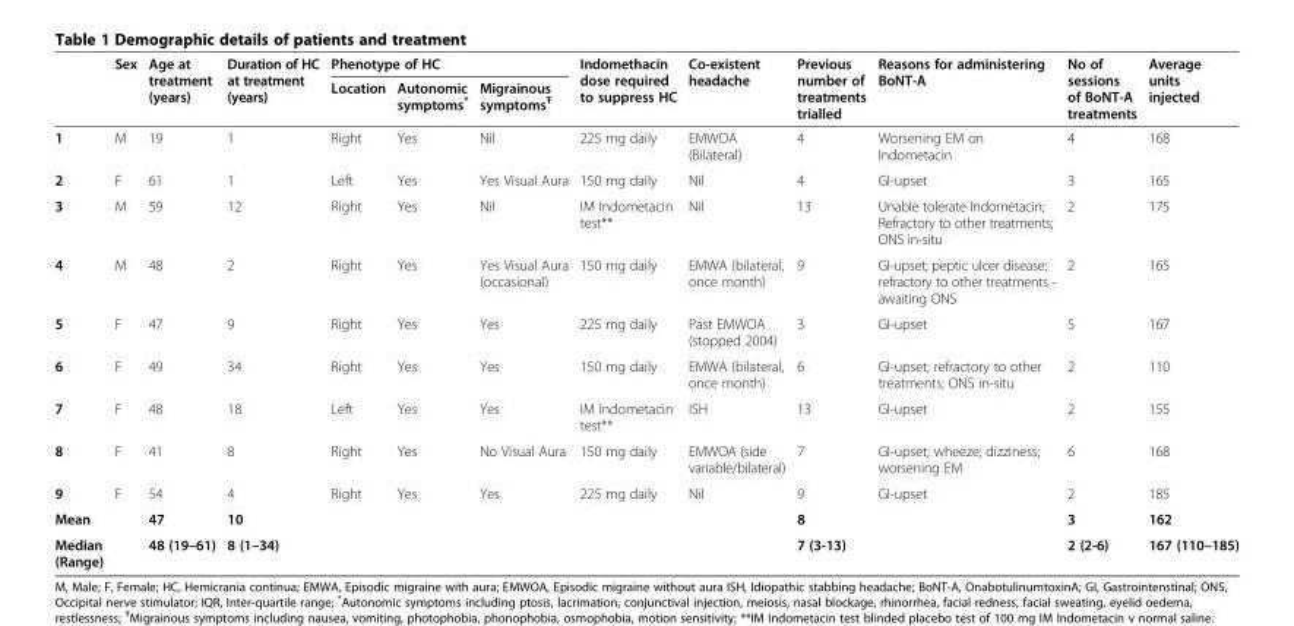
<table><thead><tr><td rowspan="2"></td><td rowspan="2">Sex</td><td rowspan="2">Age at treatment (years)</td><td rowspan="2">Duration of HC at treatment (years)</td><td colspan="3">Phenotype of HC</td><td rowspan="2">Indomethacin dose required to suppress HC</td><td rowspan="2">Co-existent headache</td><td rowspan="2">Previous number of treatments trialled</td><td rowspan="2">Reasons for administering BoNT-A</td><td rowspan="2">No of sessions of BoNT-A treatments</td><td rowspan="2">Average units injected</td></tr><tr><td>Location</td><td>Autonomic symptoms*</td><td>Migrainous symptoms<sup>Ŧ</sup></td></tr></thead><tbody><tr><td>1</td><td>M</td><td>19</td><td>1</td><td>Right</td><td>Yes</td><td>Nil</td><td>225 mg daily</td><td>EMWOA (Bilateral)</td><td>4</td><td>Worsening EM on Indometacin</td><td>4</td><td>168</td></tr><tr><td>2</td><td>F</td><td>61</td><td>1</td><td>Left</td><td>Yes</td><td>Yes Visual Aura</td><td>150 mg daily</td><td>Nil</td><td>4</td><td>GI-upset</td><td>3</td><td>165</td></tr><tr><td>3</td><td>M</td><td>59</td><td>12</td><td>Right</td><td>Yes</td><td>Nil</td><td>IM Indometacin test**</td><td>Nil</td><td>13</td><td>Unable tolerate Indometacin; Refractory to other treatments; ONS in-situ</td><td>2</td><td>175</td></tr><tr><td>4</td><td>M</td><td>48</td><td>2</td><td>Right</td><td>Yes</td><td>Yes Visual Aura (occasional)</td><td>150 mg daily</td><td>EMWA (bilateral, once month)</td><td>9</td><td>GI-upset; peptic ulcer disease; refractory to other treatments - awaiting ONS</td><td>2</td><td>165</td></tr><tr><td>5</td><td>F</td><td>47</td><td>9</td><td>Right</td><td>Yes</td><td>Yes</td><td>225 mg daily</td><td>Past EMWOA (stopped 2004)</td><td>3</td><td>GI-upset</td><td>5</td><td>167</td></tr><tr><td>6</td><td>F</td><td>49</td><td>34</td><td>Right</td><td>Yes</td><td>Yes</td><td>150 mg daily</td><td>EMWA (bilateral, once month)</td><td>6</td><td>GI-upset; refractory to other treatments; ONS in-situ</td><td>2</td><td>110</td></tr><tr><td>7</td><td>F</td><td>48</td><td>18</td><td>Left</td><td>Yes</td><td>Yes</td><td>IM Indometacin test**</td><td>ISH</td><td>13</td><td>GI-upset</td><td>2</td><td>155</td></tr><tr><td>8</td><td>F</td><td>41</td><td>8</td><td>Right</td><td>Yes</td><td>No Visual Aura</td><td>150 mg daily</td><td>EMWOA (side variable/bilateral)</td><td>7</td><td>GI-upset; wheeze; dizziness; worsening EM</td><td>6</td><td>168</td></tr><tr><td>9</td><td>F</td><td>54</td><td>4</td><td>Right</td><td>Yes</td><td>Yes</td><td>225 mg daily</td><td>Nil</td><td>9</td><td>GI-upset</td><td>2</td><td>185</td></tr><tr><td>Mean</td><td></td><td>47</td><td>10</td><td></td><td></td><td></td><td></td><td></td><td>8</td><td></td><td>3</td><td>162</td></tr><tr><td>Median (Range)</td><td></td><td>48 (19–61)</td><td>8 (1–34)</td><td></td><td></td><td></td><td></td><td></td><td>7 (3-13)</td><td></td><td>2 (2-6)</td><td>167 (110–185)</td></tr></tbody></table>